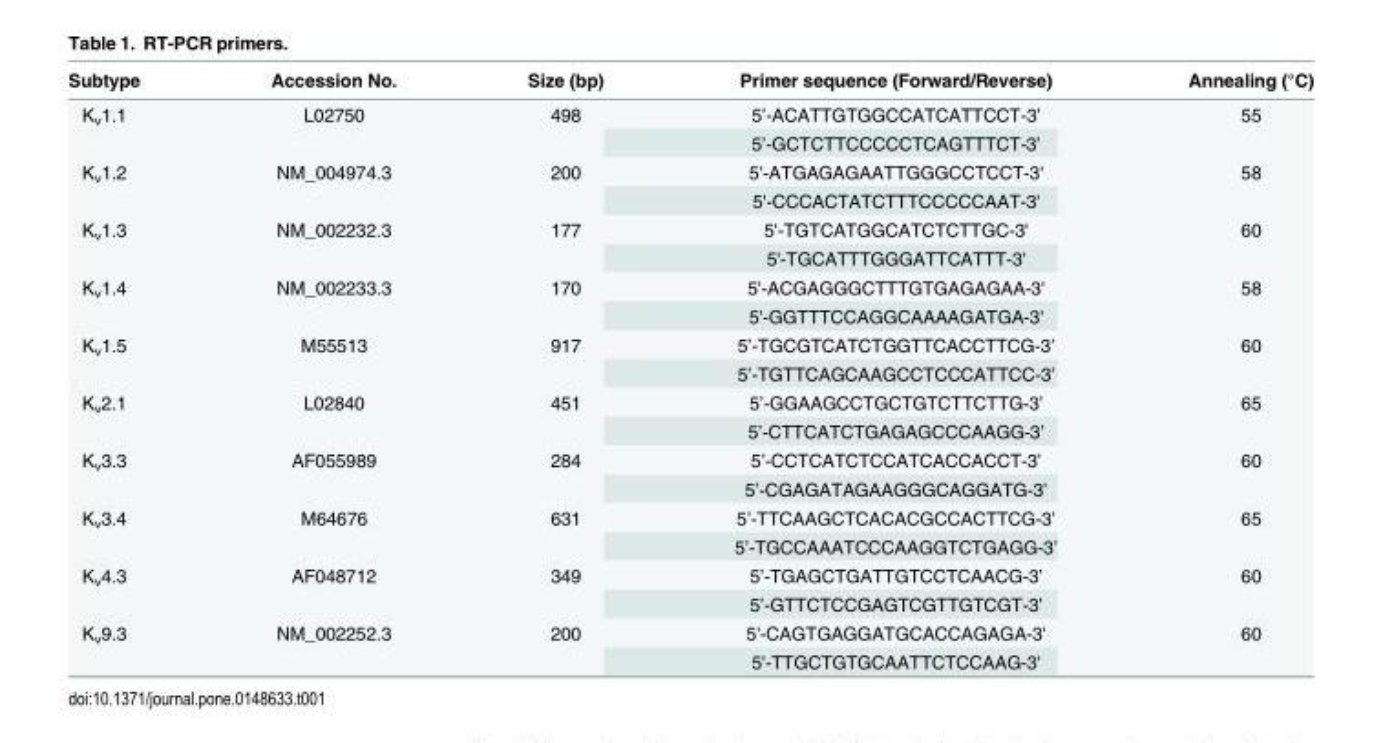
<table><thead><tr><td>Subtype</td><td>Accession No.</td><td>Size (bp)</td><td>Primer sequence (Forward/Reverse)</td><td>Annealing (°C)</td></tr></thead><tbody><tr><td rowspan="2">K<sub>v</sub>1.1</td><td rowspan="2">L02750</td><td rowspan="2">498</td><td>5’-ACATTGTGGCCATCATTCCT-3’</td><td rowspan="2">55</td></tr><tr><td>5’-GCTCTTCCCCCTCAGTTTCT-3’</td></tr><tr><td rowspan="2">K<sub>v</sub>1.2</td><td rowspan="2">NM_004974.3</td><td rowspan="2">200</td><td>5&#x27;-ATGAGAGAATTGGGCCTCCT-3&#x27;</td><td rowspan="2">58</td></tr><tr><td>5&#x27;-CCCACTATCTTTCCCCCAAT-3&#x27;</td></tr><tr><td rowspan="2">K<sub>v</sub>1.3</td><td rowspan="2">NM_002232.3</td><td rowspan="2">177</td><td>5&#x27;-TGTCATGGCATCTCTTGC-3&#x27;</td><td rowspan="2">60</td></tr><tr><td>5&#x27;-TGCATTTGGGATTCATTT-3&#x27;</td></tr><tr><td rowspan="2">K<sub>v</sub>1.4</td><td rowspan="2">NM_002233.3</td><td rowspan="2">170</td><td>5&#x27;-ACGAGGGCTTTGTGAGAGAA-3&#x27;</td><td rowspan="2">58</td></tr><tr><td>5&#x27;-GGTTTCCAGGCAAAAGATGA-3&#x27;</td></tr><tr><td rowspan="2">K<sub>v</sub>1.5</td><td rowspan="2">M55513</td><td rowspan="2">917</td><td>5’-TGCGTCATCTGGTTCACCTTCG-3’</td><td rowspan="2">60</td></tr><tr><td>5’-TGTTCAGCAAGCCTCCCATTCC-3’</td></tr><tr><td rowspan="2">K<sub>v</sub>2.1</td><td rowspan="2">L02840</td><td rowspan="2">451</td><td>5’-GGAAGCCTGCTGTCTTCTTG-3’</td><td rowspan="2">65</td></tr><tr><td>5’-CTTCATCTGAGAGCCCAAGG-3’</td></tr><tr><td rowspan="2">K<sub>v</sub>3.3</td><td rowspan="2">AF055989</td><td rowspan="2">284</td><td>5’-CCTCATCTCCATCACCACCT-3’</td><td rowspan="2">60</td></tr><tr><td>5’-CGAGATAGAAGGGCAGGATG-3’</td></tr><tr><td rowspan="2">K<sub>v</sub>3.4</td><td rowspan="2">M64676</td><td rowspan="2">631</td><td>5’-TTCAAGCTCACACGCCACTTCG-3’</td><td rowspan="2">65</td></tr><tr><td>5’-TGCCAAATCCCAAGGTCTGAGG-3’</td></tr><tr><td rowspan="2">K<sub>v</sub>4.3</td><td rowspan="2">AF048712</td><td rowspan="2">349</td><td>5’-TGAGCTGATTGTCCTCAACG-3’</td><td rowspan="2">60</td></tr><tr><td>5’-GTTCTCCGAGTCGTTGTCGT-3’</td></tr><tr><td rowspan="2">K<sub>v</sub>9.3</td><td rowspan="2">NM_002252.3</td><td rowspan="2">200</td><td>5&#x27;-CAGTGAGGATGCACCAGAGA-3&#x27;</td><td rowspan="2">60</td></tr><tr><td>5&#x27;-TTGCTGTGCAATTCTCCAAG-3&#x27;</td></tr></tbody></table>